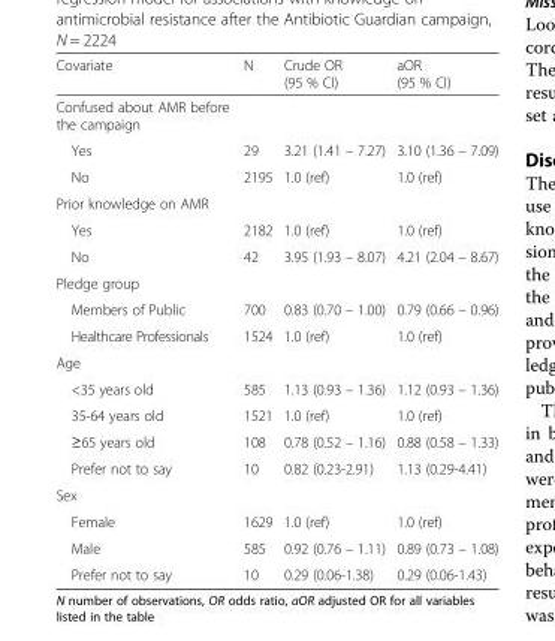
<table><thead><tr><td>Covariate</td><td>N</td><td>Crude OR (95 % CI)</td><td>aOR (95 % CI)</td></tr></thead><tbody><tr><td colspan="4">Confused about AMR before the campaign</td></tr><tr><td>Yes</td><td>29</td><td>3.21 (1.41 – 7.27)</td><td>3.10 (1.36 – 7.09)</td></tr><tr><td>No</td><td>2195</td><td>1.0 (ref)</td><td>1.0 (ref)</td></tr><tr><td colspan="4">Prior knowledge on AMR</td></tr><tr><td>Yes</td><td>2182</td><td>1.0 (ref)</td><td>1.0 (ref)</td></tr><tr><td>No</td><td>42</td><td>3.95 (1.93 – 8.07)</td><td>4.21 (2.04 – 8.67)</td></tr><tr><td colspan="4">Pledge group</td></tr><tr><td>Members of Public</td><td>700</td><td>0.83 (0.70 – 1.00)</td><td>0.79 (0.66 – 0.96)</td></tr><tr><td>Healthcare Professionals</td><td>1524</td><td>1.0 (ref)</td><td>1.0 (ref)</td></tr><tr><td colspan="4">Age</td></tr><tr><td>&lt;35 years old</td><td>585</td><td>1.13 (0.93 – 1.36)</td><td>1.12 (0.93 – 1.36)</td></tr><tr><td>35-64 years old</td><td>1521</td><td>1.0 (ref)</td><td>1.0 (ref)</td></tr><tr><td>≥65 years old</td><td>108</td><td>0.78 (0.52 – 1.16)</td><td>0.88 (0.58 – 1.33)</td></tr><tr><td>Prefer not to say</td><td>10</td><td>0.82 (0.23-2.91)</td><td>1.13 (0.29-4.41)</td></tr><tr><td colspan="4">Sex</td></tr><tr><td>Female</td><td>1629</td><td>1.0 (ref)</td><td>1.0 (ref)</td></tr><tr><td>Male</td><td>585</td><td>0.92 (0.76 – 1.11)</td><td>0.89 (0.73 – 1.08)</td></tr><tr><td>Prefer not to say</td><td>10</td><td>0.29 (0.06-1.38)</td><td>0.29 (0.06-1.43)</td></tr></tbody></table>